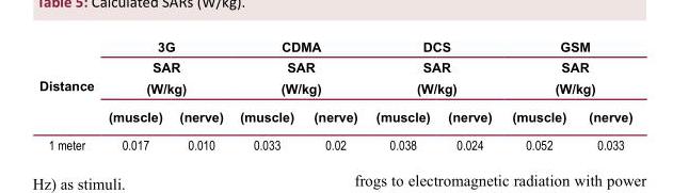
<table><thead><tr><td rowspan="3">Distance</td><td rowspan="2" colspan="2">3G SAR (W/kg)</td><td rowspan="2" colspan="2">CDMA SAR (W/kg)</td><td rowspan="2" colspan="2">DCS SAR (W/kg)</td><td rowspan="2" colspan="2">GSM SAR (W/kg)</td></tr><tr></tr><tr><td>(muscle)</td><td>(nerve)</td><td>(muscle)</td><td>(nerve)</td><td>(muscle)</td><td>(nerve)</td><td>(muscle)</td><td>(nerve)</td></tr></thead><tbody><tr><td>1 meter</td><td>0.017</td><td>0.010</td><td>0.033</td><td>0.02</td><td>0.038</td><td>0.024</td><td>0.052</td><td>0.033</td></tr></tbody></table>